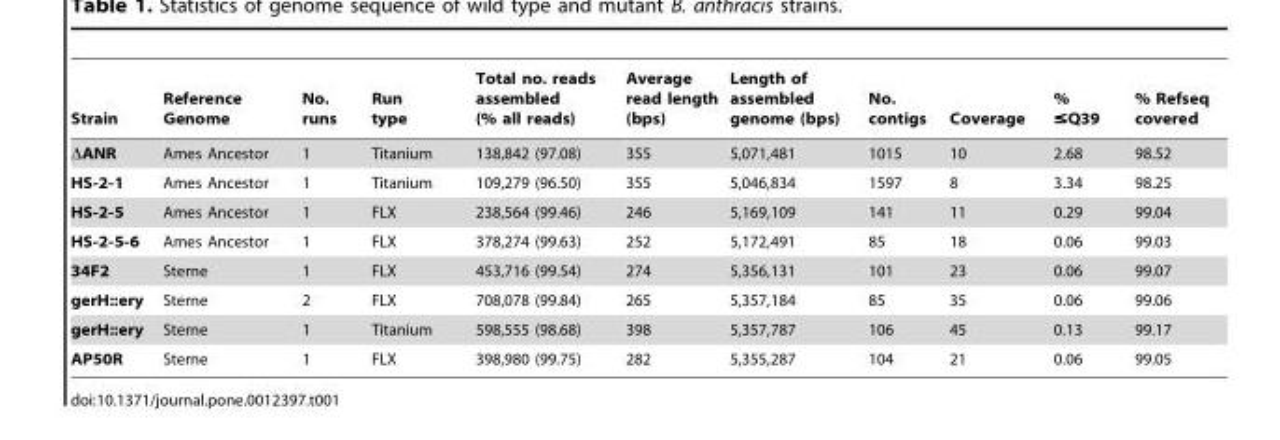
<table><thead><tr><td>Strain</td><td>Reference Genome</td><td>No. runs</td><td>Run type</td><td>Total no. reads assembled (% all reads)</td><td>Average read length (bps)</td><td>Length of assembled genome (bps)</td><td>No. contigs</td><td>Coverage</td><td>% ≤Q39</td><td>% Refseq covered</td></tr></thead><tbody><tr><td>ΔANR</td><td>Ames Ancestor</td><td>1</td><td>Titanium</td><td>138,842 (97.08)</td><td>355</td><td>5,071,481</td><td>1015</td><td>10</td><td>2.68</td><td>98.52</td></tr><tr><td>HS-2-1</td><td>Ames Ancestor</td><td>1</td><td>Titanium</td><td>109,279 (96.50)</td><td>355</td><td>5,046,834</td><td>1597</td><td>8</td><td>3.34</td><td>98.25</td></tr><tr><td>HS-2-5</td><td>Ames Ancestor</td><td>1</td><td>FLX</td><td>238,564 (99.46)</td><td>246</td><td>5,169,109</td><td>141</td><td>11</td><td>0.29</td><td>99.04</td></tr><tr><td>HS-2-5-6</td><td>Ames Ancestor</td><td>1</td><td>FLX</td><td>378,274 (99.63)</td><td>252</td><td>5,172,491</td><td>85</td><td>18</td><td>0.06</td><td>99.03</td></tr><tr><td>34F2</td><td>Sterne</td><td>1</td><td>FLX</td><td>453,716 (99.54)</td><td>274</td><td>5,356,131</td><td>101</td><td>23</td><td>0.06</td><td>99.07</td></tr><tr><td>gerH::ery</td><td>Sterne</td><td>2</td><td>FLX</td><td>708,078 (99.84)</td><td>265</td><td>5,357,184</td><td>85</td><td>35</td><td>0.06</td><td>99.06</td></tr><tr><td>gerH::ery</td><td>Sterne</td><td>1</td><td>Titanium</td><td>598,555 (98.68)</td><td>398</td><td>5,357,787</td><td>106</td><td>45</td><td>0.13</td><td>99.17</td></tr><tr><td>AP50R</td><td>Sterne</td><td>1</td><td>FLX</td><td>398,980 (99.75)</td><td>282</td><td>5,355,287</td><td>104</td><td>21</td><td>0.06</td><td>99.05</td></tr></tbody></table>